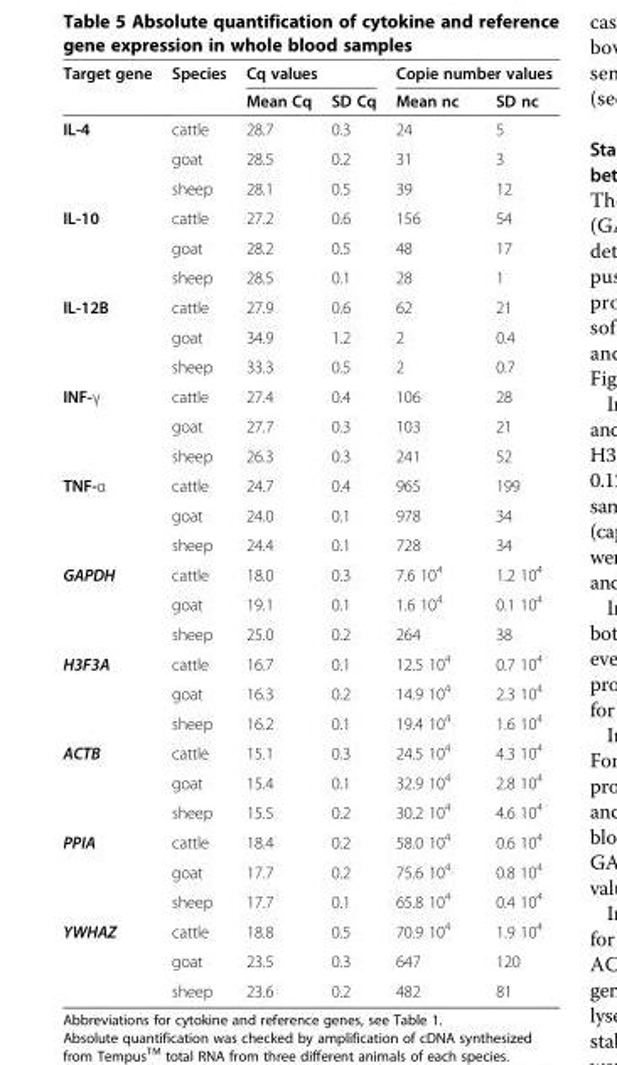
<table><thead><tr><td rowspan="2">Target gene</td><td rowspan="2">Species</td><td colspan="2">Cq values</td><td colspan="2">Copie number values</td></tr><tr><td>Mean Cq</td><td>SD Cq</td><td>Mean nc</td><td>SD nc</td></tr></thead><tbody><tr><td rowspan="3">IL-4</td><td>cattle</td><td>28.7</td><td>0.3</td><td>24</td><td>5</td></tr><tr><td>goat</td><td>28.5</td><td>0.2</td><td>31</td><td>3</td></tr><tr><td>sheep</td><td>28.1</td><td>0.5</td><td>39</td><td>12</td></tr><tr><td rowspan="3">IL-10</td><td>cattle</td><td>27.2</td><td>0.6</td><td>156</td><td>54</td></tr><tr><td>goat</td><td>28.2</td><td>0.5</td><td>48</td><td>17</td></tr><tr><td>sheep</td><td>28.5</td><td>0.1</td><td>28</td><td>1</td></tr><tr><td rowspan="3">IL-12B</td><td>cattle</td><td>27.9</td><td>0.6</td><td>62</td><td>21</td></tr><tr><td>goat</td><td>34.9</td><td>1.2</td><td>2</td><td>0.4</td></tr><tr><td>sheep</td><td>33.3</td><td>0.5</td><td>2</td><td>0.7</td></tr><tr><td rowspan="3">INF-γ</td><td>cattle</td><td>27.4</td><td>0.4</td><td>106</td><td>28</td></tr><tr><td>goat</td><td>27.7</td><td>0.3</td><td>103</td><td>21</td></tr><tr><td>sheep</td><td>26.3</td><td>0.3</td><td>241</td><td>52</td></tr><tr><td rowspan="3">TNF-α</td><td>cattle</td><td>24.7</td><td>0.4</td><td>965</td><td>199</td></tr><tr><td>goat</td><td>24.0</td><td>0.1</td><td>978</td><td>34</td></tr><tr><td>sheep</td><td>24.4</td><td>0.1</td><td>728</td><td>34</td></tr><tr><td rowspan="3">GAPDH</td><td>cattle</td><td>18.0</td><td>0.3</td><td>7.6 10<sup>4</sup></td><td>1.2 10<sup>4</sup></td></tr><tr><td>goat</td><td>19.1</td><td>0.1</td><td>1.6 10<sup>4</sup></td><td>0.1 10<sup>4</sup></td></tr><tr><td>sheep</td><td>25.0</td><td>0.2</td><td>264</td><td>38</td></tr><tr><td rowspan="3">H3F3A</td><td>cattle</td><td>16.7</td><td>0.1</td><td>12.5 10<sup>4</sup></td><td>0.7 10<sup>4</sup></td></tr><tr><td>goat</td><td>16.3</td><td>0.2</td><td>14.9 10<sup>4</sup></td><td>2.3 10<sup>4</sup></td></tr><tr><td>sheep</td><td>16.2</td><td>0.1</td><td>19.4 10<sup>4</sup></td><td>1.6 10<sup>4</sup></td></tr><tr><td rowspan="3">ACTB</td><td>cattle</td><td>15.1</td><td>0.3</td><td>24.5 10<sup>4</sup></td><td>4.3 10<sup>4</sup></td></tr><tr><td>goat</td><td>15.4</td><td>0.1</td><td>32.9 10<sup>4</sup></td><td>2.8 10<sup>4</sup></td></tr><tr><td>sheep</td><td>15.5</td><td>0.2</td><td>30.2 10<sup>4</sup></td><td>4.6 10<sup>4</sup></td></tr><tr><td rowspan="3">PPIA</td><td>cattle</td><td>18.4</td><td>0.2</td><td>58.0 10<sup>4</sup></td><td>0.6 10<sup>4</sup></td></tr><tr><td>goat</td><td>17.7</td><td>0.2</td><td>75.6 10<sup>4</sup></td><td>0.8 10<sup>4</sup></td></tr><tr><td>sheep</td><td>17.7</td><td>0.1</td><td>65.8 10<sup>4</sup></td><td>0.4 10<sup>4</sup></td></tr><tr><td rowspan="3">YWHAZ</td><td>cattle</td><td>18.8</td><td>0.5</td><td>70.9 10<sup>4</sup></td><td>1.9 10<sup>4</sup></td></tr><tr><td>goat</td><td>23.5</td><td>0.3</td><td>647</td><td>120</td></tr><tr><td>sheep</td><td>23.6</td><td>0.2</td><td>482</td><td>81</td></tr></tbody></table>